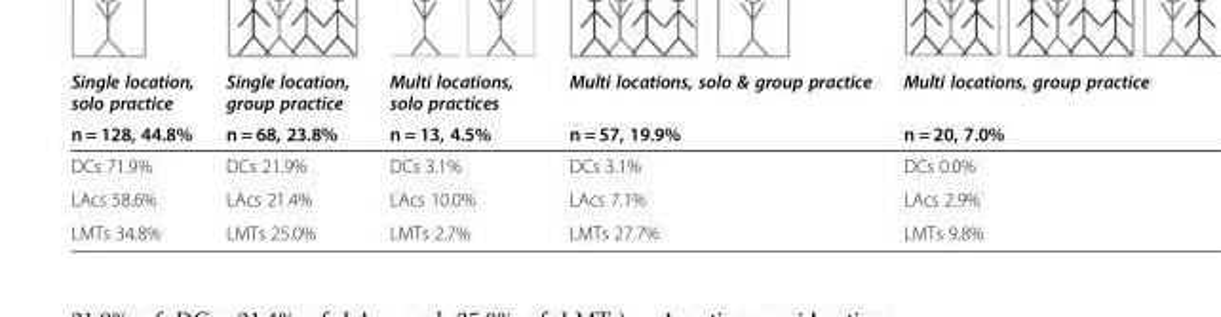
<table><thead><tr><td rowspan="2">Single location, solo practice n = 128, 44.8%</td><td rowspan="2">Single location, group practice n = 68, 23.8%</td><td rowspan="2">Multi locations, solo practices n = 13, 4.5%</td><td rowspan="2">Multi locations, solo &amp; group practice n = 57, 19.9%</td><td rowspan="2">Multi locations, group practice n = 20, 7.0%</td></tr><tr></tr></thead><tbody><tr><td>DCs 71.9%</td><td>DCs 21.9%</td><td>DCs 3.1%</td><td>DCs 3.1%</td><td>DCs 0.0%</td></tr><tr><td>LAcs 58.6%</td><td>LAcs 21.4%</td><td>LAcs 10.0%</td><td>LAcs 7.1%</td><td>LAcs 2.9%</td></tr><tr><td>LMTs 34.8%</td><td>LMTs 25.0%</td><td>LMTs 2.7%</td><td>LMTs 27.7%</td><td>LMTs 9.8%</td></tr></tbody></table>